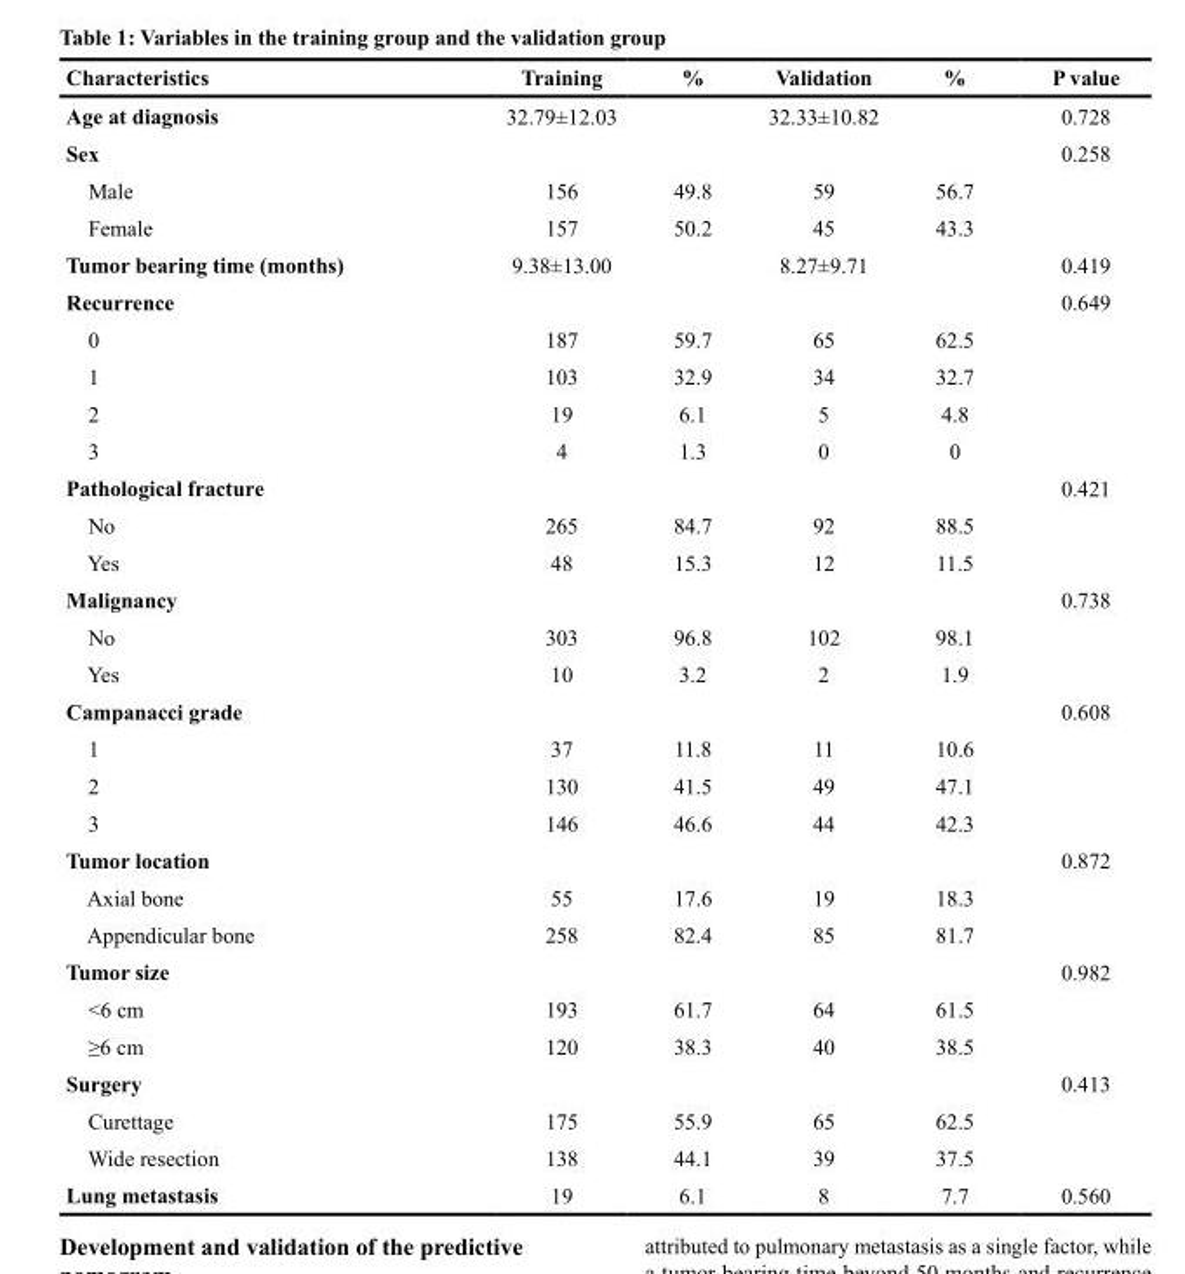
<table><thead><tr><td>Characteristics</td><td>Training</td><td>%</td><td>Validation</td><td>%</td><td>P value</td></tr></thead><tbody><tr><td>Age at diagnosis</td><td>32.79±12.03</td><td></td><td>32.33±10.82</td><td></td><td>0.728</td></tr><tr><td>Sex</td><td></td><td></td><td></td><td></td><td>0.258</td></tr><tr><td>Male</td><td>156</td><td>49.8</td><td>59</td><td>56.7</td><td></td></tr><tr><td>Female</td><td>157</td><td>50.2</td><td>45</td><td>43.3</td><td></td></tr><tr><td>Tumor bearing time (months)</td><td>9.38±13.00</td><td></td><td>8.27±9.71</td><td></td><td>0.419</td></tr><tr><td>Recurrence</td><td></td><td></td><td></td><td></td><td>0.649</td></tr><tr><td>0</td><td>187</td><td>59.7</td><td>65</td><td>62.5</td><td></td></tr><tr><td>1</td><td>103</td><td>32.9</td><td>34</td><td>32.7</td><td></td></tr><tr><td>2</td><td>19</td><td>6.1</td><td>5</td><td>4.8</td><td></td></tr><tr><td>3</td><td>4</td><td>1.3</td><td>0</td><td>0</td><td></td></tr><tr><td>Pathological fracture</td><td></td><td></td><td></td><td></td><td>0.421</td></tr><tr><td>No</td><td>265</td><td>84.7</td><td>92</td><td>88.5</td><td></td></tr><tr><td>Yes</td><td>48</td><td>15.3</td><td>12</td><td>11.5</td><td></td></tr><tr><td>Malignancy</td><td></td><td></td><td></td><td></td><td>0.738</td></tr><tr><td>No</td><td>303</td><td>96.8</td><td>102</td><td>98.1</td><td></td></tr><tr><td>Yes</td><td>10</td><td>3.2</td><td>2</td><td>1.9</td><td></td></tr><tr><td>Campanacci grade</td><td></td><td></td><td></td><td></td><td>0.608</td></tr><tr><td>1</td><td>37</td><td>11.8</td><td>11</td><td>10.6</td><td></td></tr><tr><td>2</td><td>130</td><td>41.5</td><td>49</td><td>47.1</td><td></td></tr><tr><td>3</td><td>146</td><td>46.6</td><td>44</td><td>42.3</td><td></td></tr><tr><td>Tumor location</td><td></td><td></td><td></td><td></td><td>0.872</td></tr><tr><td>Axial bone</td><td>55</td><td>17.6</td><td>19</td><td>18.3</td><td></td></tr><tr><td>Appendicular bone</td><td>258</td><td>82.4</td><td>85</td><td>81.7</td><td></td></tr><tr><td>Tumor size</td><td></td><td></td><td></td><td></td><td>0.982</td></tr><tr><td>&lt;6 cm</td><td>193</td><td>61.7</td><td>64</td><td>61.5</td><td></td></tr><tr><td>≥6 cm</td><td>120</td><td>38.3</td><td>40</td><td>38.5</td><td></td></tr><tr><td>Surgery</td><td></td><td></td><td></td><td></td><td>0.413</td></tr><tr><td>Curettage</td><td>175</td><td>55.9</td><td>65</td><td>62.5</td><td></td></tr><tr><td>Wide resection</td><td>138</td><td>44.1</td><td>39</td><td>37.5</td><td></td></tr><tr><td>Lung metastasis</td><td>19</td><td>6.1</td><td>8</td><td>7.7</td><td>0.560</td></tr></tbody></table>